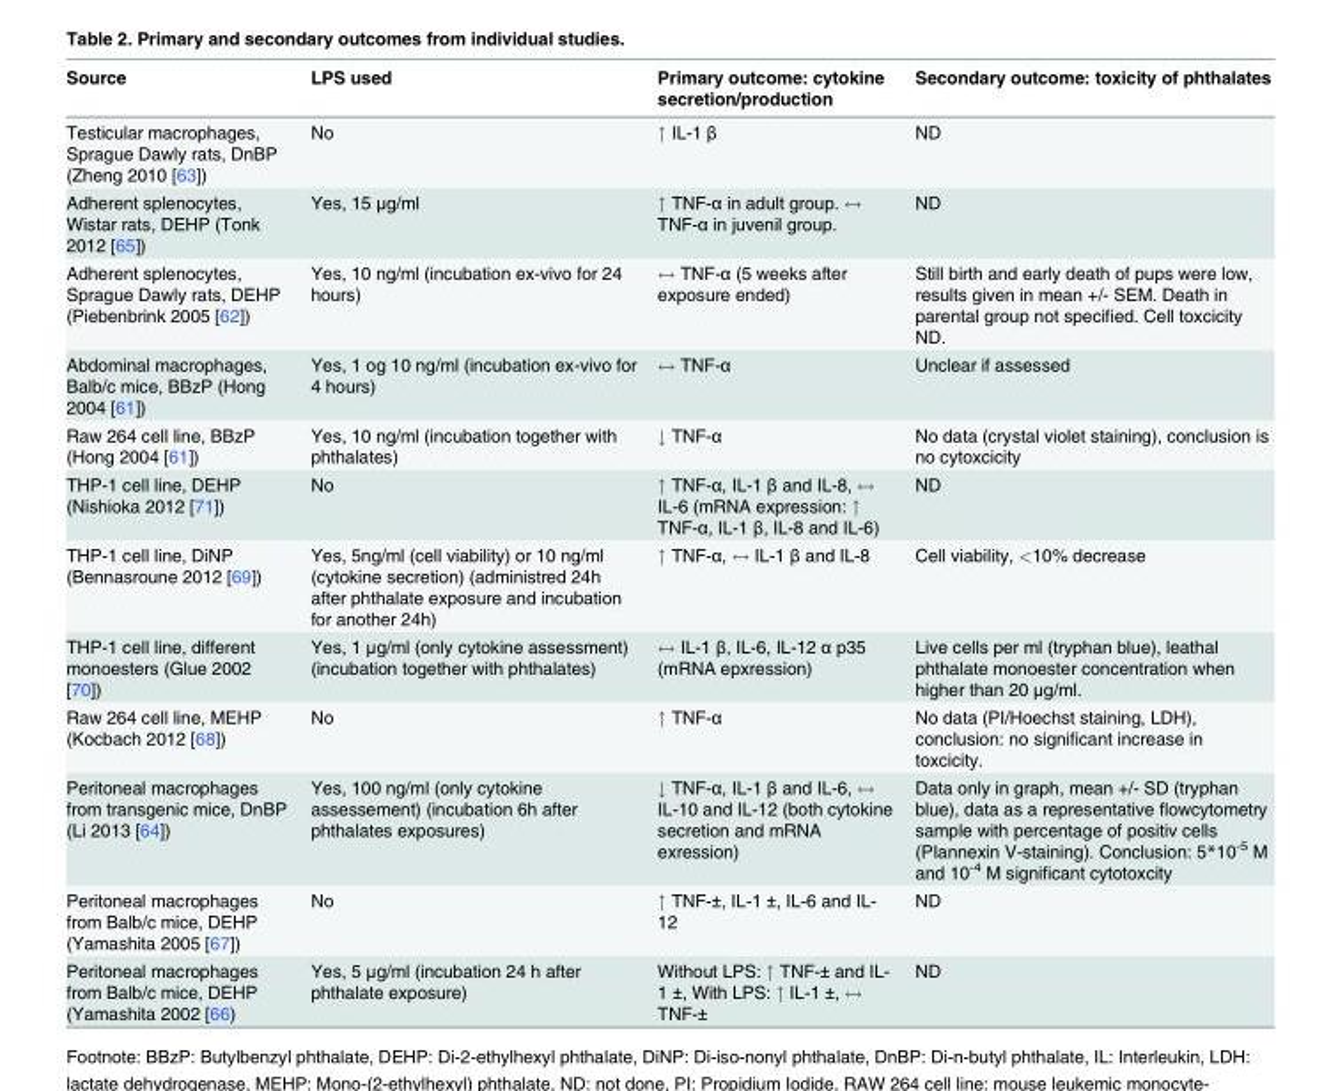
<table><thead><tr><td>Source</td><td>LPS used</td><td>Primary outcome: cytokine secretion/production</td><td>Secondary outcome: toxicity of phthalates</td></tr></thead><tbody><tr><td>Testicular macrophages, Sprague Dawly rats, DnBP (Zheng 2010 [63])</td><td>No</td><td>↑ IL-1 β</td><td>ND</td></tr><tr><td>Adherent splenocytes, Wistar rats, DEHP (Tonk 2012 [65])</td><td>Yes, 15 μg/ml</td><td>↑ TNF-α in adult group. ↔ TNF-α in juvenil group.</td><td>ND</td></tr><tr><td>Adherent splenocytes, Sprague Dawly rats, DEHP (Piebenbrink 2005 [62])</td><td>Yes, 10 ng/ml (incubation ex-vivo for 24 hours)</td><td>↔ TNF-α (5 weeks after exposure ended)</td><td>Still birth and early death of pups were low, results given in mean +/- SEM. Death in parental group not specified. Cell toxcicity ND.</td></tr><tr><td>Abdominal macrophages, Balb/c mice, BBzP (Hong 2004 [61])</td><td>Yes, 1 og 10 ng/ml (incubation ex-vivo for 4 hours)</td><td>↔ TNF-α</td><td>Unclear if assessed</td></tr><tr><td>Raw 264 cell line, BBzP (Hong 2004 [61])</td><td>Yes, 10 ng/ml (incubation together with phthalates)</td><td>↓ TNF-α</td><td>No data (crystal violet staining), conclusion is no cytoxcicity</td></tr><tr><td>THP-1 cell line, DEHP (Nishioka 2012 [71])</td><td>No</td><td>↑ TNF-α, IL-1 β and IL-8, ↔ IL-6 (mRNA expression: ↑ TNF-α, IL-1 β, IL-8 and IL-6)</td><td>ND</td></tr><tr><td>THP-1 cell line, DiNP (Bennasroune 2012 [69])</td><td>Yes, 5ng/ml (cell viability) or 10 ng/ml (cytokine secretion) (administred 24h after phthalate exposure and incubation for another 24h)</td><td>↑ TNF-α, ↔ IL-1 β and IL-8</td><td>Cell viability, &lt;10% decrease</td></tr><tr><td>THP-1 cell line, different monoesters (Glue 2002 [70])</td><td>Yes, 1 μg/ml (only cytokine assessment) (incubation together with phthalates)</td><td>↔ IL-1 β, IL-6, IL-12 α p35 (mRNA epxression)</td><td>Live cells per ml (tryphan blue), leathal phthalate monoester concentration when higher than 20 μg/ml.</td></tr><tr><td>Raw 264 cell line, MEHP (Kocbach 2012 [68])</td><td>No</td><td>↑ TNF-α</td><td>No data (PI/Hoechst staining, LDH), conclusion: no significant increase in toxcicity.</td></tr><tr><td>Peritoneal macrophages from transgenic mice, DnBP (Li 2013 [64])</td><td>Yes, 100 ng/ml (only cytokine assessement) (incubation 6h after phthalates exposures)</td><td>↓ TNF-α, IL-1 β and IL-6, ↔ IL-10 and IL-12 (both cytokine secretion and mRNA exression)</td><td>Data only in graph, mean +/- SD (tryphan blue), data as a representative flowcytometry sample with percentage of positiv cells (PIannexin V-staining). Conclusion: 5*10<sup>-5</sup> M and 10<sup>-4</sup> M significant cytotoxcity</td></tr><tr><td>Peritoneal macrophages from Balb/c mice, DEHP (Yamashita 2005 [67])</td><td>No</td><td>↑ TNF-±, IL-1 ±, IL-6 and IL- 12</td><td>ND</td></tr><tr><td>Peritoneal macrophages from Balb/c mice, DEHP (Yamashita 2002 [66)</td><td>Yes, 5 μg/ml (incubation 24 h after phthalate exposure)</td><td>Without LPS: ↑ TNF-± and IL- 1 ±, With LPS: ↑ IL-1 ±, ↔ TNF-±</td><td>ND</td></tr></tbody></table>